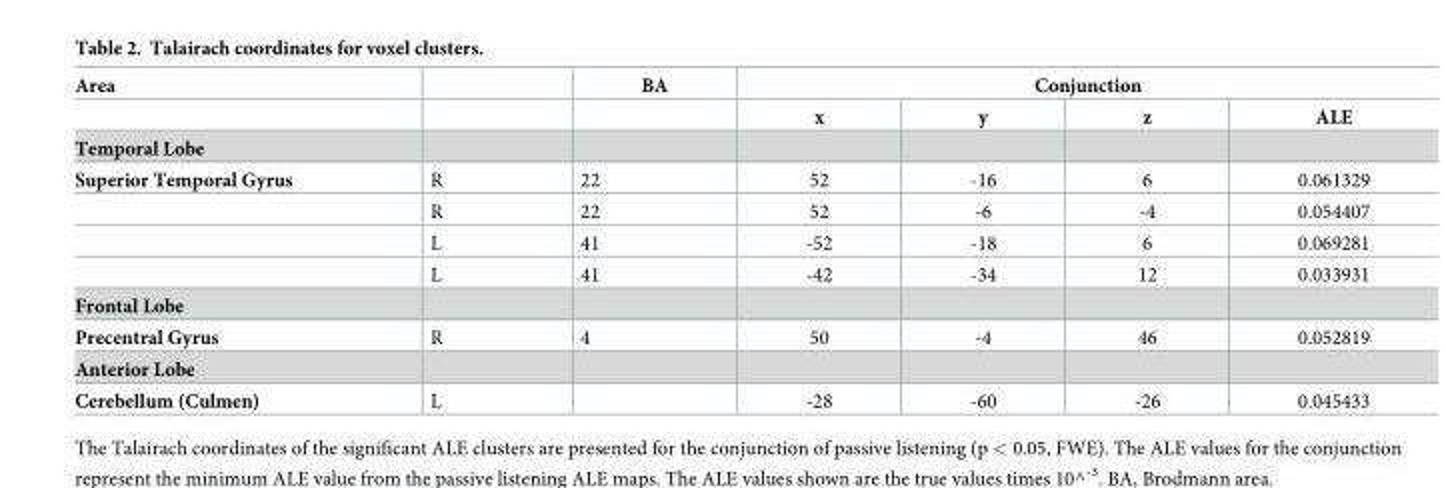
<table><thead><tr><td rowspan="2">Area</td><td rowspan="2"></td><td rowspan="2">BA</td><td colspan="4">Conjunction</td></tr><tr><td>x</td><td>y</td><td>z</td><td>ALE</td></tr></thead><tbody><tr><td colspan="7">Temporal Lobe</td></tr><tr><td rowspan="4">Superior Temporal Gyrus</td><td>R</td><td>22</td><td>52</td><td>-16</td><td>6</td><td>0.061329</td></tr><tr><td>R</td><td>22</td><td>52</td><td>-6</td><td>-4</td><td>0.054407</td></tr><tr><td>L</td><td>41</td><td>-52</td><td>-18</td><td>6</td><td>0.069281</td></tr><tr><td>L</td><td>41</td><td>-42</td><td>-34</td><td>12</td><td>0.033931</td></tr><tr><td colspan="7">Frontal Lobe</td></tr><tr><td>Precentral Gyrus</td><td>R</td><td>4</td><td>50</td><td>-4</td><td>46</td><td>0.052819</td></tr><tr><td colspan="7">Anterior Lobe</td></tr><tr><td>Cerebellum (Culmen)</td><td>L</td><td></td><td>-28</td><td>-60</td><td>-26</td><td>0.045433</td></tr></tbody></table>